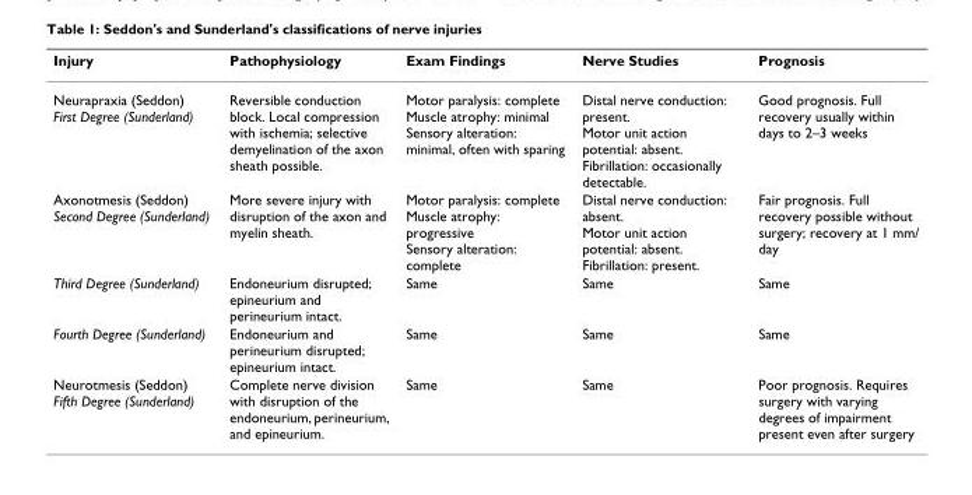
<table><thead><tr><td>Injury</td><td>Pathophysiology</td><td>Exam Findings</td><td>Nerve Studies</td><td>Prognosis</td></tr></thead><tbody><tr><td>Neurapraxia (Seddon) First Degree (Sunderland)</td><td>Reversible conduction block. Local compression with ischemia; selective demyelination of the axon sheath possible.</td><td>Motor paralysis: complete Muscle atrophy: minimal Sensory alteration: minimal, often with sparing</td><td>Distal nerve conduction: present. Motor unit action potential: absent. Fibrillation: occasionally detectable.</td><td>Good prognosis. Full recovery usually within days to 2–3 weeks</td></tr><tr><td>Axonotmesis (Seddon) Second Degree (Sunderland)</td><td>More severe injury with disruption of the axon and myelin sheath.</td><td>Motor paralysis: complete Muscle atrophy: progressive Sensory alteration: complete</td><td>Distal nerve conduction: absent. Motor unit action potential: absent. Fibrillation: present.</td><td>Fair prognosis. Full recovery possible without surgery; recovery at 1 mm/ day</td></tr><tr><td>Third Degree (Sunderland)</td><td>Endoneurium disrupted; epineurium and perineurium intact.</td><td>Same</td><td>Same</td><td>Same</td></tr><tr><td>Fourth Degree (Sunderland)</td><td>Endoneurium and perineurium disrupted; epineurium intact.</td><td>Same</td><td>Same</td><td>Same</td></tr><tr><td>Neurotmesis (Seddon) Fifth Degree (Sunderland)</td><td>Complete nerve division with disruption of the endoneurium, perineurium, and epineurium.</td><td>Same</td><td>Same</td><td>Poor prognosis. Requires surgery with varying degrees of impairment present even after surgery</td></tr></tbody></table>